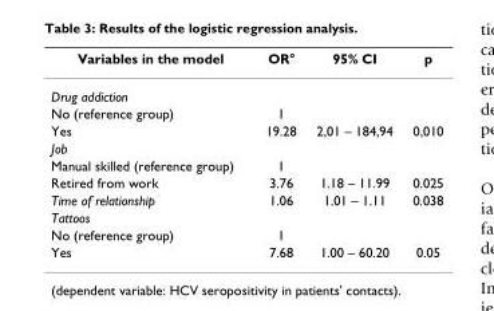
<table><thead><tr><td>Variables in the model</td><td>OR°</td><td>95% CI</td><td>p</td></tr></thead><tbody><tr><td colspan="4">Drug addiction</td></tr><tr><td>No (reference group)</td><td>1</td><td></td><td></td></tr><tr><td>Yes</td><td>19.28</td><td>2,01 – 184,94</td><td>0,010</td></tr><tr><td colspan="4">Job</td></tr><tr><td>Manual skilled (reference group)</td><td>1</td><td></td><td></td></tr><tr><td>Retired from work</td><td>3.76</td><td>1.18 – 11.99</td><td>0.025</td></tr><tr><td>Time of relationship</td><td>1.06</td><td>1.01 – 1.11</td><td>0.038</td></tr><tr><td colspan="4">Tattoos</td></tr><tr><td>No (reference group)</td><td>1</td><td></td><td></td></tr><tr><td>Yes</td><td>7.68</td><td>1.00 – 60.20</td><td>0.05</td></tr></tbody></table>